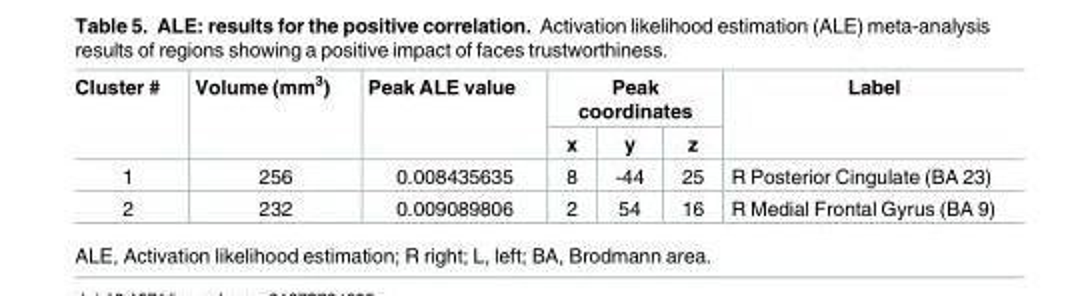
<table><thead><tr><td rowspan="2">Cluster #</td><td rowspan="2">Volume (mm<sup>3</sup>)</td><td rowspan="2">Peak ALE value</td><td colspan="3">Peak coordinates</td><td rowspan="2">Label</td></tr><tr><td>x</td><td>y</td><td>z</td></tr></thead><tbody><tr><td>1</td><td>256</td><td>0.008435635</td><td>8</td><td>-44</td><td>25</td><td>R Posterior Cingulate (BA 23)</td></tr><tr><td>2</td><td>232</td><td>0.009089806</td><td>2</td><td>54</td><td>16</td><td>R Medial Frontal Gyrus (BA 9)</td></tr></tbody></table>